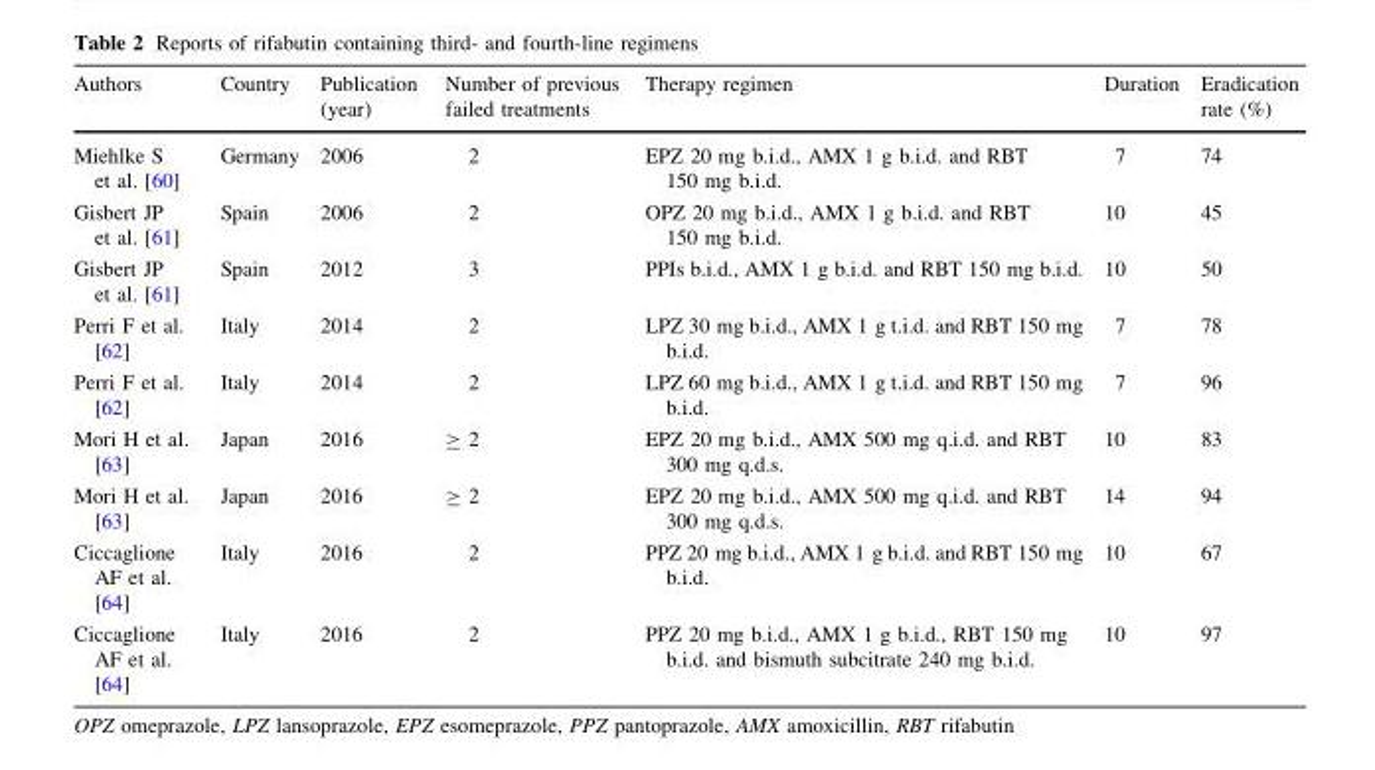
<table><thead><tr><td>Authors</td><td>Country</td><td>Publication (year)</td><td>Number of previous failed treatments</td><td>Therapy regimen</td><td>Duration</td><td>Eradication rate (%)</td></tr></thead><tbody><tr><td>Miehlke S et al. [60]</td><td>Germany</td><td>2006</td><td>2</td><td>EPZ 20 mg b.i.d., AMX 1 g b.i.d. and RBT 150 mg b.i.d.</td><td>7</td><td>74</td></tr><tr><td>Gisbert JP et al. [61]</td><td>Spain</td><td>2006</td><td>2</td><td>OPZ 20 mg b.i.d., AMX 1 g b.i.d. and RBT 150 mg b.i.d.</td><td>10</td><td>45</td></tr><tr><td>Gisbert JP et al. [61]</td><td>Spain</td><td>2012</td><td>3</td><td>PPIs b.i.d., AMX 1 g b.i.d. and RBT 150 mg b.i.d.</td><td>10</td><td>50</td></tr><tr><td>Perri F et al. [62]</td><td>Italy</td><td>2014</td><td>2</td><td>LPZ 30 mg b.i.d., AMX 1 g t.i.d. and RBT 150 mg b.i.d.</td><td>7</td><td>78</td></tr><tr><td>Perri F et al. [62]</td><td>Italy</td><td>2014</td><td>2</td><td>LPZ 60 mg b.i.d., AMX 1 g t.i.d. and RBT 150 mg b.i.d.</td><td>7</td><td>96</td></tr><tr><td>Mori H et al. [63]</td><td>Japan</td><td>2016</td><td>≥ 2</td><td>EPZ 20 mg b.i.d., AMX 500 mg q.i.d. and RBT 300 mg q.d.s.</td><td>10</td><td>83</td></tr><tr><td>Mori H et al. [63]</td><td>Japan</td><td>2016</td><td>≥ 2</td><td>EPZ 20 mg b.i.d., AMX 500 mg q.i.d. and RBT 300 mg q.d.s.</td><td>14</td><td>94</td></tr><tr><td>Ciccaglione AF et al. [64]</td><td>Italy</td><td>2016</td><td>2</td><td>PPZ 20 mg b.i.d., AMX 1 g b.i.d. and RBT 150 mg b.i.d.</td><td>10</td><td>67</td></tr><tr><td>Ciccaglione AF et al. [64]</td><td>Italy</td><td>2016</td><td>2</td><td>PPZ 20 mg b.i.d., AMX 1 g b.i.d., RBT 150 mg b.i.d. and bismuth subcitrate 240 mg b.i.d.</td><td>10</td><td>97</td></tr></tbody></table>